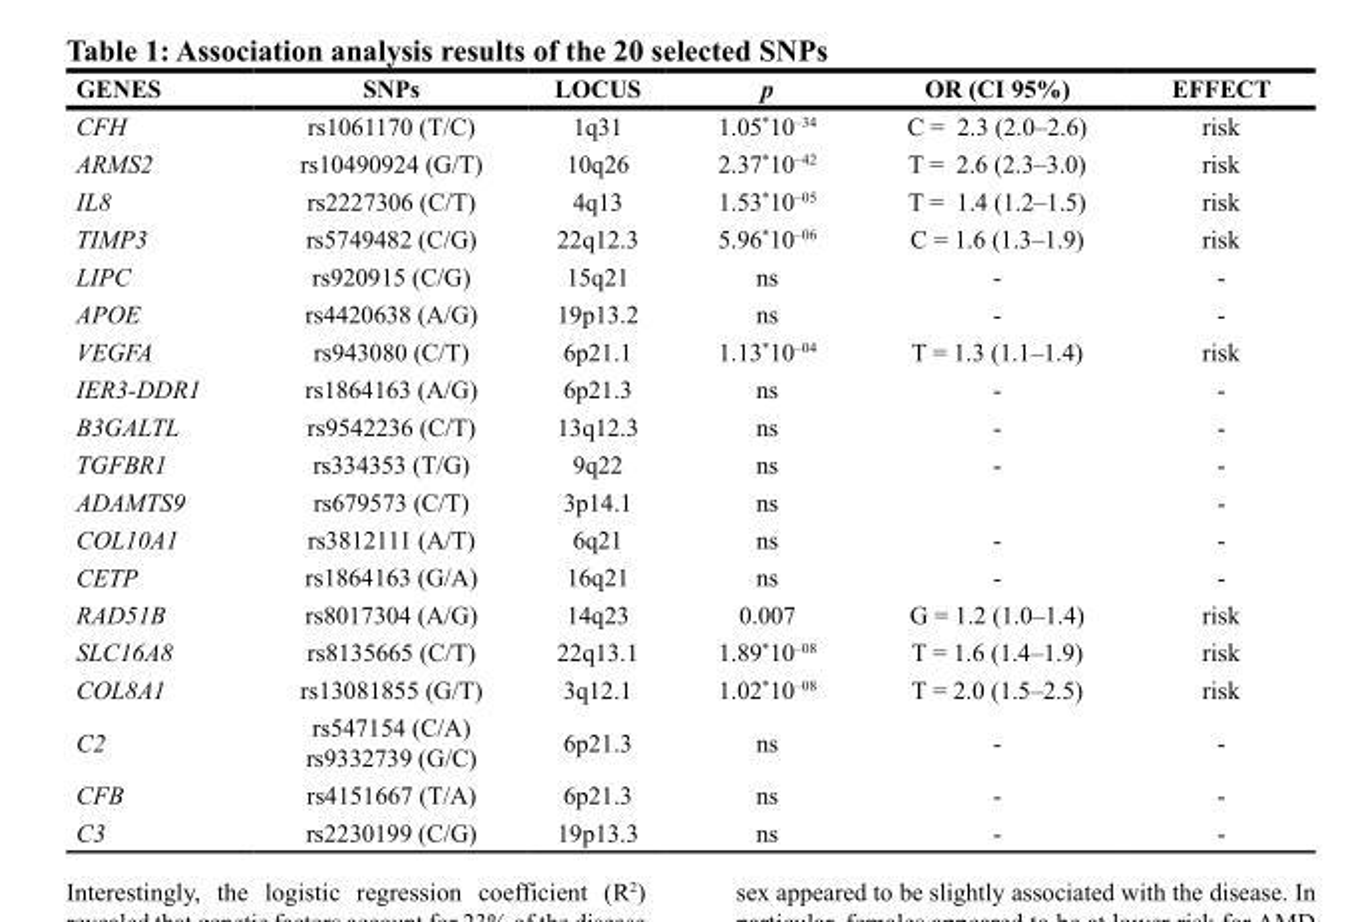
<table><thead><tr><td>GENES</td><td>SNPs</td><td>LOCUS</td><td>p</td><td>OR (CI 95%)</td><td>EFFECT</td></tr></thead><tbody><tr><td>CFH</td><td>rs1061170 (T/C)</td><td>1q31</td><td>1.05*10<sup>–34</sup></td><td>C = 2.3 (2.0–2.6)</td><td>risk</td></tr><tr><td>ARMS2</td><td>rs10490924 (G/T)</td><td>10q26</td><td>2.37*10<sup>–42</sup></td><td>T = 2.6 (2.3–3.0)</td><td>risk</td></tr><tr><td>IL8</td><td>rs2227306 (C/T)</td><td>4q13</td><td>1.53*10<sup>–05</sup></td><td>T = 1.4 (1.2–1.5)</td><td>risk</td></tr><tr><td>TIMP3</td><td>rs5749482 (C/G)</td><td>22q12.3</td><td>5.96*10<sup>–06</sup></td><td>C = 1.6 (1.3–1.9)</td><td>risk</td></tr><tr><td>LIPC</td><td>rs920915 (C/G)</td><td>15q21</td><td>ns</td><td>-</td><td>-</td></tr><tr><td>APOE</td><td>rs4420638 (A/G)</td><td>19p13.2</td><td>ns</td><td>-</td><td>-</td></tr><tr><td>VEGFA</td><td>rs943080 (C/T)</td><td>6p21.1</td><td>1.13*10<sup>–04</sup></td><td>T = 1.3 (1.1–1.4)</td><td>risk</td></tr><tr><td>IER3-DDR1</td><td>rs1864163 (A/G)</td><td>6p21.3</td><td>ns</td><td>-</td><td>-</td></tr><tr><td>B3GALTL</td><td>rs9542236 (C/T)</td><td>13q12.3</td><td>ns</td><td>-</td><td>-</td></tr><tr><td>TGFBR1</td><td>rs334353 (T/G)</td><td>9q22</td><td>ns</td><td>-</td><td>-</td></tr><tr><td>ADAMTS9</td><td>rs679573 (C/T)</td><td>3p14.1</td><td>ns</td><td></td><td>-</td></tr><tr><td>COL10A1</td><td>rs3812111 (A/T)</td><td>6q21</td><td>ns</td><td>-</td><td>-</td></tr><tr><td>CETP</td><td>rs1864163 (G/A)</td><td>16q21</td><td>ns</td><td>-</td><td>-</td></tr><tr><td>RAD51B</td><td>rs8017304 (A/G)</td><td>14q23</td><td>0.007</td><td>G = 1.2 (1.0–1.4)</td><td>risk</td></tr><tr><td>SLC16A8</td><td>rs8135665 (C/T)</td><td>22q13.1</td><td>1.89*10<sup>–08</sup></td><td>T = 1.6 (1.4–1.9)</td><td>risk</td></tr><tr><td>COL8A1</td><td>rs13081855 (G/T)</td><td>3q12.1</td><td>1.02*10<sup>–08</sup></td><td>T = 2.0 (1.5–2.5)</td><td>risk</td></tr><tr><td>C2</td><td>rs547154 (C/A) rs9332739 (G/C)</td><td>6p21.3</td><td>ns</td><td>-</td><td>-</td></tr><tr><td>CFB</td><td>rs4151667 (T/A)</td><td>6p21.3</td><td>ns</td><td>-</td><td>-</td></tr><tr><td>C3</td><td>rs2230199 (C/G)</td><td>19p13.3</td><td>ns</td><td>-</td><td>-</td></tr></tbody></table>